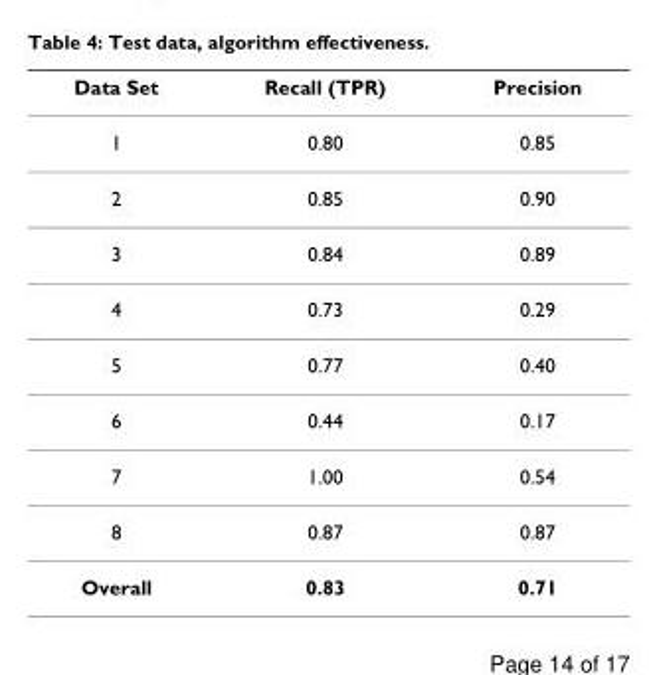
<table><thead><tr><td>Data Set</td><td>Recall (TPR)</td><td>Precision</td></tr></thead><tbody><tr><td>1</td><td>0.80</td><td>0.85</td></tr><tr><td>2</td><td>0.85</td><td>0.90</td></tr><tr><td>3</td><td>0.84</td><td>0.89</td></tr><tr><td>4</td><td>0.73</td><td>0.29</td></tr><tr><td>5</td><td>0.77</td><td>0.40</td></tr><tr><td>6</td><td>0.44</td><td>0.17</td></tr><tr><td>7</td><td>1.00</td><td>0.54</td></tr><tr><td>8</td><td>0.87</td><td>0.87</td></tr><tr><td>Overall</td><td>0.83</td><td>0.71</td></tr></tbody></table>